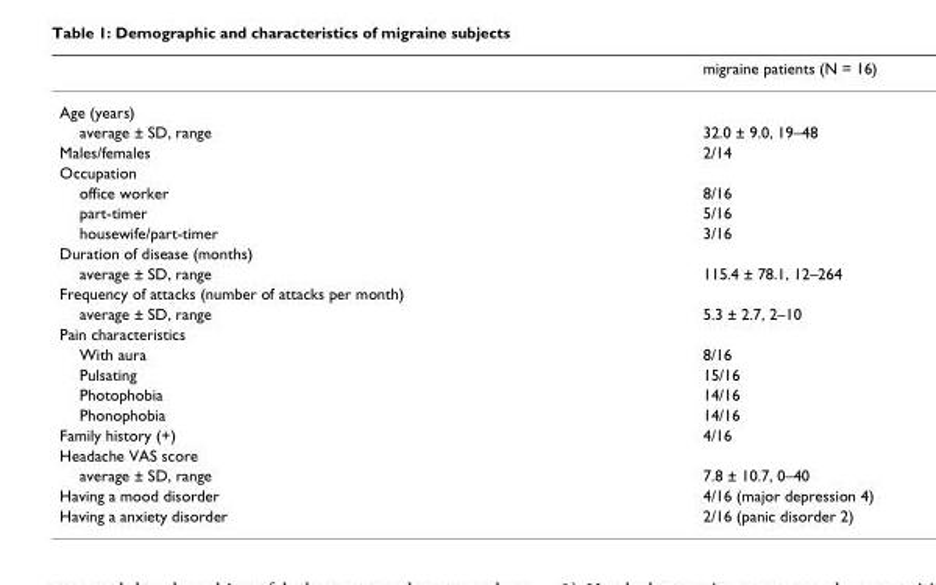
<table><thead><tr><td></td><td>migraine patients (N = 16)</td></tr></thead><tbody><tr><td colspan="2">Age (years)</td></tr><tr><td>average ± SD, range</td><td>32.0 ± 9.0, 19–48</td></tr><tr><td>Males/females</td><td>2/14</td></tr><tr><td colspan="2">Occupation</td></tr><tr><td>office worker</td><td>8/16</td></tr><tr><td>part-timer</td><td>5/16</td></tr><tr><td>housewife/part-timer</td><td>3/16</td></tr><tr><td colspan="2">Duration of disease (months)</td></tr><tr><td>average ± SD, range</td><td>115.4 ± 78.1, 12–264</td></tr><tr><td colspan="2">Frequency of attacks (number of attacks per month)</td></tr><tr><td>average ± SD, range</td><td>5.3 ± 2.7, 2–10</td></tr><tr><td colspan="2">Pain characteristics</td></tr><tr><td>With aura</td><td>8/16</td></tr><tr><td>Pulsating</td><td>15/16</td></tr><tr><td>Photophobia</td><td>14/16</td></tr><tr><td>Phonophobia</td><td>14/16</td></tr><tr><td>Family history (+)</td><td>4/16</td></tr><tr><td colspan="2">Headache VAS score</td></tr><tr><td>average ± SD, range</td><td>7.8 ± 10.7, 0–40</td></tr><tr><td>Having a mood disorder</td><td>4/16 (major depression 4)</td></tr><tr><td>Having a anxiety disorder</td><td>2/16 (panic disorder 2)</td></tr></tbody></table>